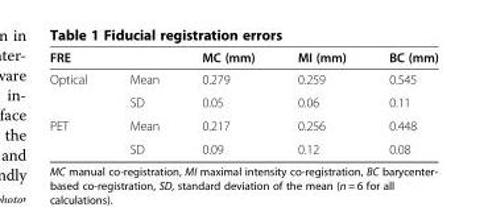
<table><thead><tr><td colspan="2">FRE</td><td rowspan="2">MC (mm) 0.279</td><td rowspan="2">MI (mm) 0.259</td><td rowspan="2">BC (mm) 0.545</td></tr><tr><td>Optical</td><td>Mean</td></tr></thead><tbody><tr><td></td><td>SD</td><td>0.05</td><td>0.06</td><td>0.11</td></tr><tr><td rowspan="2">PET</td><td>Mean</td><td>0.217</td><td>0.256</td><td>0.448</td></tr><tr><td>SD</td><td>0.09</td><td>0.12</td><td>0.08</td></tr></tbody></table>